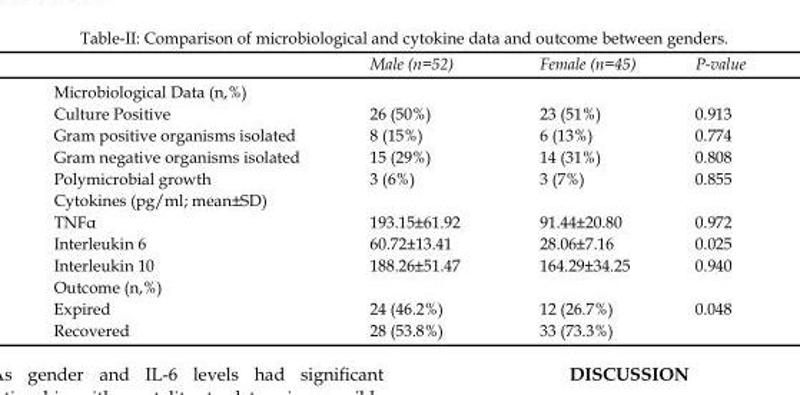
<table><thead><tr><td></td><td>Male (n=52)</td><td>Female (n=45)</td><td>P-value</td></tr></thead><tbody><tr><td colspan="4">Microbiological Data (n,%)</td></tr><tr><td>Culture Positive</td><td>26 (50%)</td><td>23 (51%)</td><td>0.913</td></tr><tr><td>Gram positive organisms isolated</td><td>8 (15%)</td><td>6 (13%)</td><td>0.774</td></tr><tr><td>Gram negative organisms isolated</td><td>15 (29%)</td><td>14 (31%)</td><td>0.808</td></tr><tr><td>Polymicrobial growth</td><td>3 (6%)</td><td>3 (7%)</td><td>0.855</td></tr><tr><td colspan="4">Cytokines (pg/ml; mean±SD)</td></tr><tr><td>TNFα</td><td>193.15±61.92</td><td>91.44±20.80</td><td>0.972</td></tr><tr><td>Interleukin 6</td><td>60.72±13.41</td><td>28.06±7.16</td><td>0.025</td></tr><tr><td>Interleukin 10</td><td>188.26±51.47</td><td>164.29±34.25</td><td>0.940</td></tr><tr><td colspan="4">Outcome (n,%)</td></tr><tr><td>Expired</td><td>24 (46.2%)</td><td>12 (26.7%)</td><td>0.048</td></tr><tr><td>Recovered</td><td>28 (53.8%)</td><td>33 (73.3%)</td><td></td></tr></tbody></table>